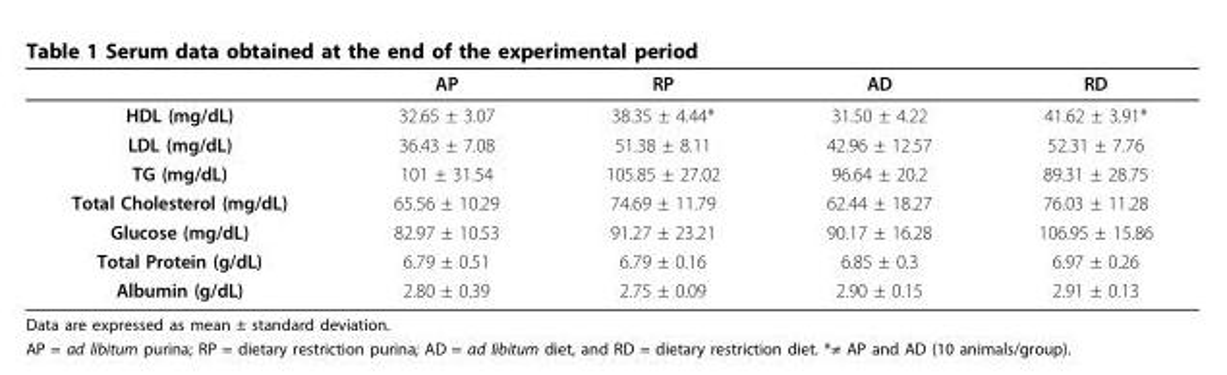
<table><thead><tr><td></td><td>AP</td><td>RP</td><td>AD</td><td>RD</td></tr></thead><tbody><tr><td>HDL (mg/dL)</td><td>32.65 ± 3.07</td><td>38.35 ± 4.44*</td><td>31.50 ± 4.22</td><td>41.62 ± 3.91*</td></tr><tr><td>LDL (mg/dL)</td><td>36.43 ± 7.08</td><td>51.38 ± 8.11</td><td>42.96 ± 12.57</td><td>52.31 ± 7.76</td></tr><tr><td>TG (mg/dL)</td><td>101 ± 31.54</td><td>105.85 ± 27.02</td><td>96.64 ± 20.2</td><td>89.31 ± 28.75</td></tr><tr><td>Total Cholesterol (mg/dL)</td><td>65.56 ± 10.29</td><td>74.69 ± 11.79</td><td>62.44 ± 18.27</td><td>76.03 ± 11.28</td></tr><tr><td>Glucose (mg/dL)</td><td>82.97 ± 10.53</td><td>91.27 ± 23.21</td><td>90.17 ± 16.28</td><td>106.95 ± 15.86</td></tr><tr><td>Total Protein (g/dL)</td><td>6.79 ± 0.51</td><td>6.79 ± 0.16</td><td>6.85 ± 0.3</td><td>6.97 ± 0.26</td></tr><tr><td>Albumin (g/dL)</td><td>2.80 ± 0.39</td><td>2.75 ± 0.09</td><td>2.90 ± 0.15</td><td>2.91 ± 0.13</td></tr></tbody></table>